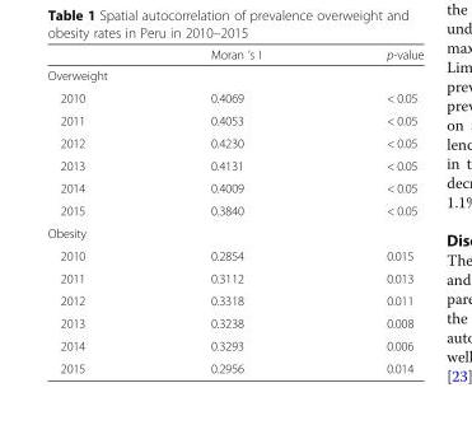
<table><thead><tr><td></td><td>Moran ’s I</td><td>p-value</td></tr></thead><tbody><tr><td colspan="3">Overweight</td></tr><tr><td>2010</td><td>0.4069</td><td>&lt; 0.05</td></tr><tr><td>2011</td><td>0.4053</td><td>&lt; 0.05</td></tr><tr><td>2012</td><td>0.4230</td><td>&lt; 0.05</td></tr><tr><td>2013</td><td>0.4131</td><td>&lt; 0.05</td></tr><tr><td>2014</td><td>0.4009</td><td>&lt; 0.05</td></tr><tr><td>2015</td><td>0.3840</td><td>&lt; 0.05</td></tr><tr><td colspan="3">Obesity</td></tr><tr><td>2010</td><td>0.2854</td><td>0.015</td></tr><tr><td>2011</td><td>0.3112</td><td>0.013</td></tr><tr><td>2012</td><td>0.3318</td><td>0.011</td></tr><tr><td>2013</td><td>0.3238</td><td>0.008</td></tr><tr><td>2014</td><td>0.3293</td><td>0.006</td></tr><tr><td>2015</td><td>0.2956</td><td>0.014</td></tr></tbody></table>